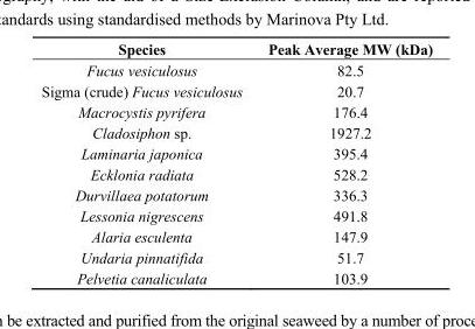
<table><thead><tr><td>Species</td><td>Peak Average MW (kDa)</td></tr></thead><tbody><tr><td>Fucus vesiculosus</td><td>82.5</td></tr><tr><td>Sigma (crude) Fucus vesiculosus</td><td>20.7</td></tr><tr><td>Macrocystis pyrifera</td><td>176.4</td></tr><tr><td>Cladosiphon sp.</td><td>1927.2</td></tr><tr><td>Laminaria japonica</td><td>395.4</td></tr><tr><td>Ecklonia radiata</td><td>528.2</td></tr><tr><td>Durvillaea potatorum</td><td>336.3</td></tr><tr><td>Lessonia nigrescens</td><td>491.8</td></tr><tr><td>Alaria esculenta</td><td>147.9</td></tr><tr><td>Undaria pinnatifida</td><td>51.7</td></tr><tr><td>Pelvetia canaliculata</td><td>103.9</td></tr></tbody></table>